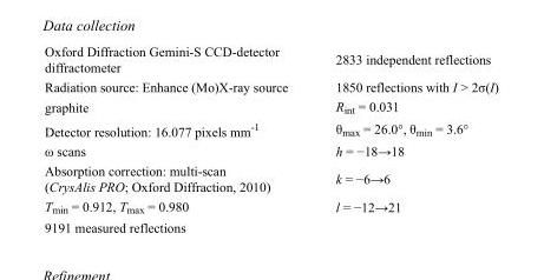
<table><tbody><tr><td>Oxford Diffraction Gemini-S CCD-detector diffractometer</td><td>2833 independent reflections</td></tr><tr><td>Radiation source: Enhance (Mo)X-ray source</td><td>1850 reflections with I &gt; 2σ(I)</td></tr><tr><td>graphite</td><td>R<sub>int</sub> = 0.031</td></tr><tr><td>Detector resolution: 16.077 pixels mm<sup>-1</sup></td><td>θ<sub>max</sub> = 26.0°, θ<sub>min</sub> = 3.6°</td></tr><tr><td>ω scans</td><td>h = −18→18</td></tr><tr><td>Absorption correction: multi-scan (CrysAlis PRO; Oxford Diffraction, 2010)</td><td>k = −6→6</td></tr><tr><td>T<sub>min</sub> = 0.912, T<sub>max</sub> = 0.980</td><td>l = −12→21</td></tr><tr><td>9191 measured reflections</td><td></td></tr></tbody></table>